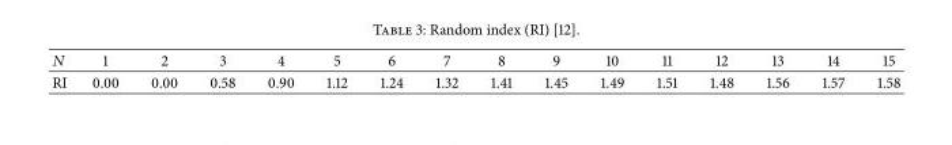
<table><tbody><tr><td></td><td>1</td><td>2</td><td>3</td><td>4</td><td>5</td><td>6</td><td>7</td><td>8</td><td>9</td><td>10</td><td>11</td><td>12</td><td>13</td><td>14</td><td>15</td></tr><tr><td>RI</td><td>0.00</td><td>0.00</td><td>0.58</td><td>0.90</td><td>1.12</td><td>1.24</td><td>1.32</td><td>1.41</td><td>1.45</td><td>1.49</td><td>1.51</td><td>1.48</td><td>1.56</td><td>1.57</td><td>1.58</td></tr></tbody></table>